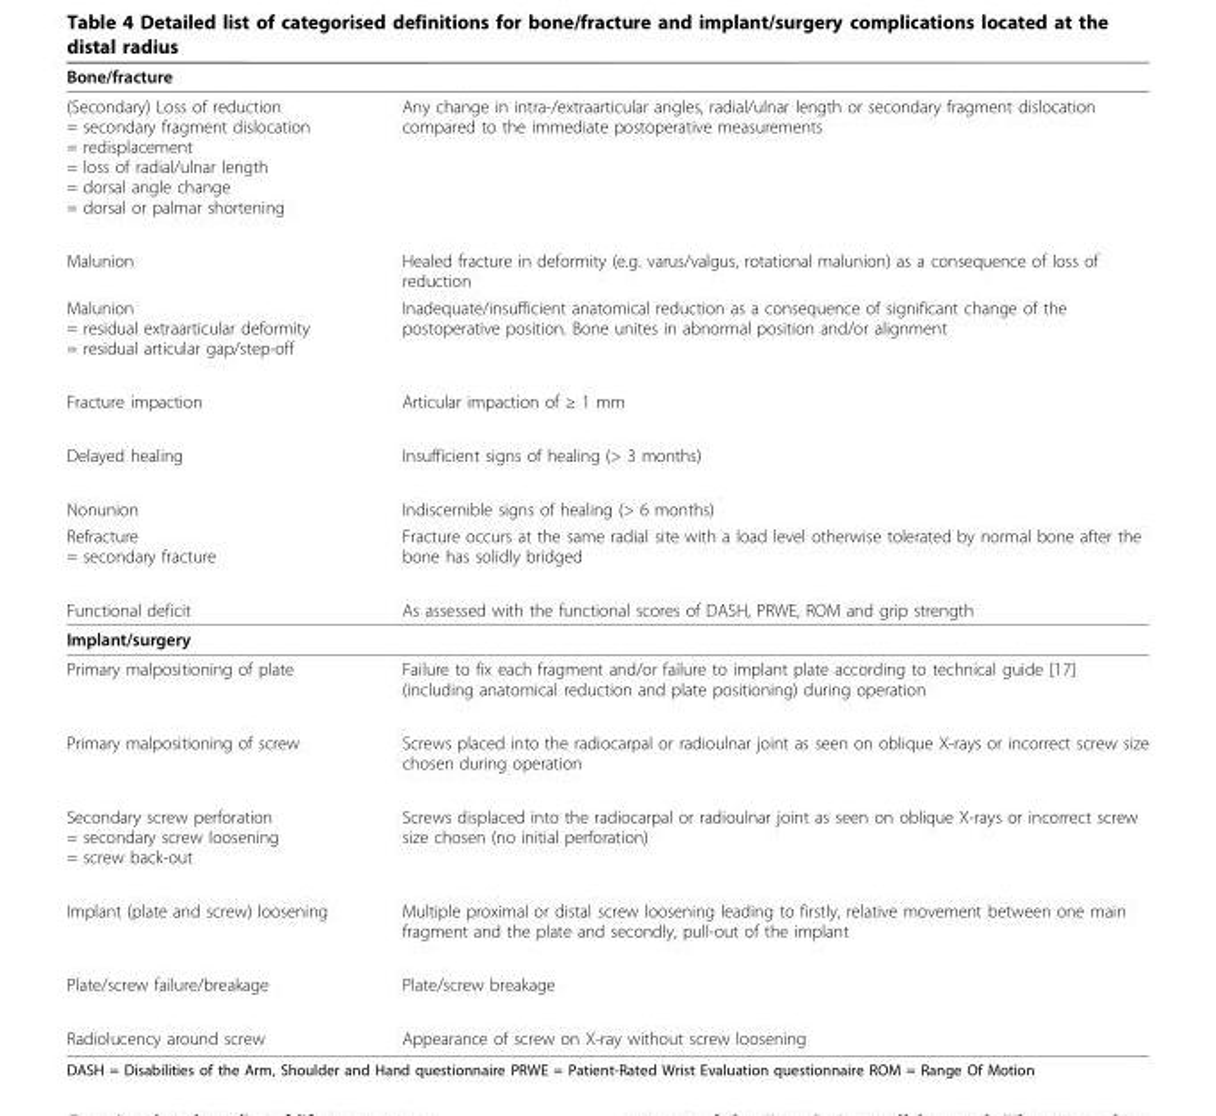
<table><thead><tr><td>Bone/fracture</td><td></td></tr></thead><tbody><tr><td>(Secondary) Loss of reduction = secondary fragment dislocation = redisplacement = loss of radial/ulnar length = dorsal angle change = dorsal or palmar shortening</td><td>Any change in intra-/extraarticular angles, radial/ulnar length or secondary fragment dislocation compared to the immediate postoperative measurements</td></tr><tr><td>Malunion</td><td>Healed fracture in deformity (e.g. varus/valgus, rotational malunion) as a consequence of loss of reduction</td></tr><tr><td>Malunion = residual extraarticular deformity = residual articular gap/step-off</td><td>Inadequate/insufficient anatomical reduction as a consequence of significant change of the postoperative position. Bone unites in abnormal position and/or alignment</td></tr><tr><td>Fracture impaction</td><td>Articular impaction of ≥ 1 mm</td></tr><tr><td>Delayed healing</td><td>Insufficient signs of healing (&gt; 3 months)</td></tr><tr><td>Nonunion</td><td>Indiscernible signs of healing (&gt; 6 months)</td></tr><tr><td>Refracture = secondary fracture</td><td>Fracture occurs at the same radial site with a load level otherwise tolerated by normal bone after the bone has solidly bridged</td></tr><tr><td>Functional deficit</td><td>As assessed with the functional scores of DASH, PRWE, ROM and grip strength</td></tr><tr><td colspan="2">Implant/surgery</td></tr><tr><td>Primary malpositioning of plate</td><td>Failure to fix each fragment and/or failure to implant plate according to technical guide [17] (including anatomical reduction and plate positioning) during operation</td></tr><tr><td>Primary malpositioning of screw</td><td>Screws placed into the radiocarpal or radioulnar joint as seen on oblique X-rays or incorrect screw size chosen during operation</td></tr><tr><td>Secondary screw perforation = secondary screw loosening = screw back-out</td><td>Screws displaced into the radiocarpal or radioulnar joint as seen on oblique X-rays or incorrect screw size chosen (no initial perforation)</td></tr><tr><td>Implant (plate and screw) loosening</td><td>Multiple proximal or distal screw loosening leading to firstly, relative movement between one main fragment and the plate and secondly, pull-out of the implant</td></tr><tr><td>Plate/screw failure/breakage</td><td>Plate/screw breakage</td></tr><tr><td>Radiolucency around screw</td><td>Appearance of screw on X-ray without screw loosening</td></tr></tbody></table>